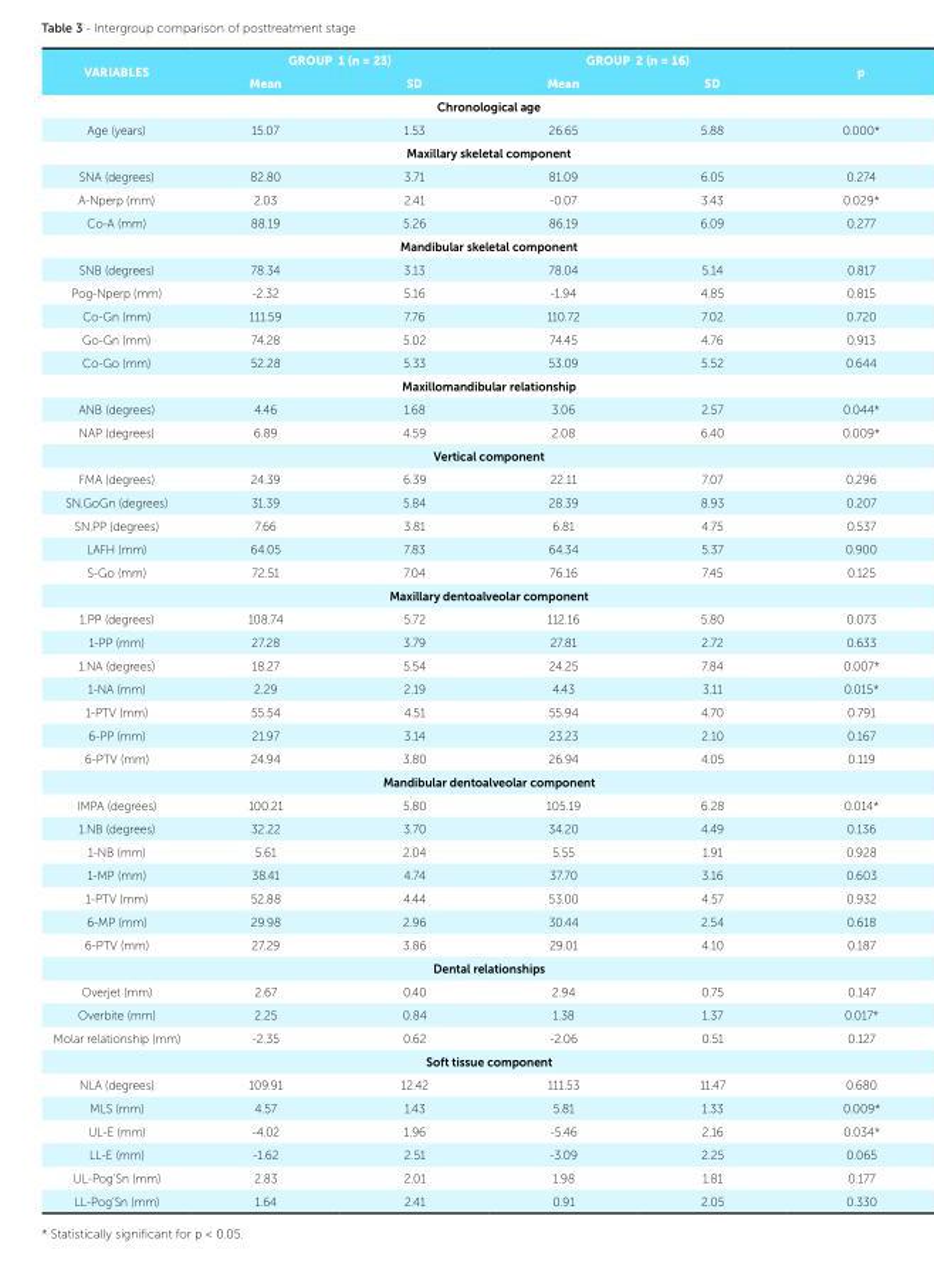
<table><tbody><tr><td rowspan="2">VARIABLES</td><td colspan="2">GROUP 1 (n = 23)</td><td colspan="2">GROUP 2 (n = 16)</td><td rowspan="2">p</td></tr><tr><td>Mean</td><td>SD</td><td>Mean</td><td>SD</td></tr><tr><td colspan="6">Chronological age</td></tr><tr><td>Age (years)</td><td>15.07</td><td>1.53</td><td>26.65</td><td>5.88</td><td>0.000*</td></tr><tr><td colspan="6">Maxillary skeletal component</td></tr><tr><td>SNA (degrees)</td><td>82.80</td><td>3.71</td><td>81.09</td><td>6.05</td><td>0.274</td></tr><tr><td>A-Nperp (mm)</td><td>2.03</td><td>2.41</td><td>-0.07</td><td>3.43</td><td>0.029*</td></tr><tr><td>Co-A (mm)</td><td>88.19</td><td>5.26</td><td>86.19</td><td>6.09</td><td>0.277</td></tr><tr><td colspan="6">Mandibular skeletal component</td></tr><tr><td>SNB (degrees)</td><td>78.34</td><td>3.13</td><td>78.04</td><td>5.14</td><td>0.817</td></tr><tr><td>Pog-Nperp (mm)</td><td>-2.32</td><td>5.16</td><td>-1.94</td><td>4.85</td><td>0.815</td></tr><tr><td>Co-Gn (mm)</td><td>111.59</td><td>7.76</td><td>110.72</td><td>7.02</td><td>0.720</td></tr><tr><td>Go-Gn (mm)</td><td>74.28</td><td>5.02</td><td>74.45</td><td>4.76</td><td>0.913</td></tr><tr><td>Co-Go (mm)</td><td>52.28</td><td>5.33</td><td>53.09</td><td>5.52</td><td>0.644</td></tr><tr><td colspan="6">Maxillomandibular relationship</td></tr><tr><td>ANB (degrees)</td><td>4.46</td><td>1.68</td><td>3.06</td><td>2.57</td><td>0.044*</td></tr><tr><td>NAP (degrees)</td><td>6.89</td><td>4.59</td><td>2.08</td><td>6.40</td><td>0.009*</td></tr><tr><td colspan="6">Vertical component</td></tr><tr><td>FMA (degrees)</td><td>24.39</td><td>6.39</td><td>22.11</td><td>7.07</td><td>0.296</td></tr><tr><td>SN.GoGn (degrees)</td><td>31.39</td><td>5.84</td><td>28.39</td><td>8.93</td><td>0.207</td></tr><tr><td>SN.PP (degrees)</td><td>7.66</td><td>3.81</td><td>6.81</td><td>4.75</td><td>0.537</td></tr><tr><td>LAFH (mm)</td><td>64.05</td><td>7.83</td><td>64.34</td><td>5.37</td><td>0.900</td></tr><tr><td>S-Go (mm)</td><td>72.51</td><td>7.04</td><td>76.16</td><td>7.45</td><td>0.125</td></tr><tr><td colspan="6">Maxillary dentoalveolar component</td></tr><tr><td>1.PP (degrees)</td><td>108.74</td><td>5.72</td><td>112.16</td><td>5.80</td><td>0.073</td></tr><tr><td>1-PP (mm)</td><td>27.28</td><td>3.79</td><td>27.81</td><td>2.72</td><td>0.633</td></tr><tr><td>1.NA (degrees)</td><td>18.27</td><td>5.54</td><td>24.25</td><td>7.84</td><td>0.007*</td></tr><tr><td>1-NA (mm)</td><td>2.29</td><td>2.19</td><td>4.43</td><td>3.11</td><td>0.015*</td></tr><tr><td>1-PTV (mm)</td><td>55.54</td><td>4.51</td><td>55.94</td><td>4.70</td><td>0.791</td></tr><tr><td>6-PP (mm)</td><td>21.97</td><td>3.14</td><td>23.23</td><td>2.10</td><td>0.167</td></tr><tr><td>6-PTV (mm)</td><td>24.94</td><td>3.80</td><td>26.94</td><td>4.05</td><td>0.119</td></tr><tr><td colspan="6">Mandibular dentoalveolar component</td></tr><tr><td>IMPA (degrees)</td><td>100.21</td><td>5.80</td><td>105.19</td><td>6.28</td><td>0.014*</td></tr><tr><td>1.NB (degrees)</td><td>32.22</td><td>3.70</td><td>34.20</td><td>4.49</td><td>0.136</td></tr><tr><td>1-NB (mm)</td><td>5.61</td><td>2.04</td><td>5.55</td><td>1.91</td><td>0.928</td></tr><tr><td>1-MP (mm)</td><td>38.41</td><td>4.74</td><td>37.70</td><td>3.16</td><td>0.603</td></tr><tr><td>1-PTV (mm)</td><td>52.88</td><td>4.44</td><td>53.00</td><td>4.57</td><td>0.932</td></tr><tr><td>6-MP (mm)</td><td>29.98</td><td>2.96</td><td>30.44</td><td>2.54</td><td>0.618</td></tr><tr><td>6-PTV (mm)</td><td>27.29</td><td>3.86</td><td>29.01</td><td>4.10</td><td>0.187</td></tr><tr><td colspan="6">Dental relationships</td></tr><tr><td>Overjet (mm)</td><td>2.67</td><td>0.40</td><td>2.94</td><td>0.75</td><td>0.147</td></tr><tr><td>Overbite (mm)</td><td>2.25</td><td>0.84</td><td>1.38</td><td>1.37</td><td>0.017*</td></tr><tr><td>Molar relationship (mm)</td><td>-2.35</td><td>0.62</td><td>-2.06</td><td>0.51</td><td>0.127</td></tr><tr><td colspan="6">Soft tissue component</td></tr><tr><td>NLA (degrees)</td><td>109.91</td><td>12.42</td><td>111.53</td><td>11.47</td><td>0.680</td></tr><tr><td>MLS (mm)</td><td>4.57</td><td>1.43</td><td>5.81</td><td>1.33</td><td>0.009*</td></tr><tr><td>UL-E (mm)</td><td>-4.02</td><td>1.96</td><td>-5.46</td><td>2.16</td><td>0.034*</td></tr><tr><td>LL-E (mm)</td><td>-1.62</td><td>2.51</td><td>-3.09</td><td>2.25</td><td>0.065</td></tr><tr><td>UL-Pog’Sn (mm)</td><td>2.83</td><td>2.01</td><td>1.98</td><td>1.81</td><td>0.177</td></tr><tr><td>LL-Pog’Sn (mm)</td><td>1.64</td><td>2.41</td><td>0.91</td><td>2.05</td><td>0.330</td></tr></tbody></table>